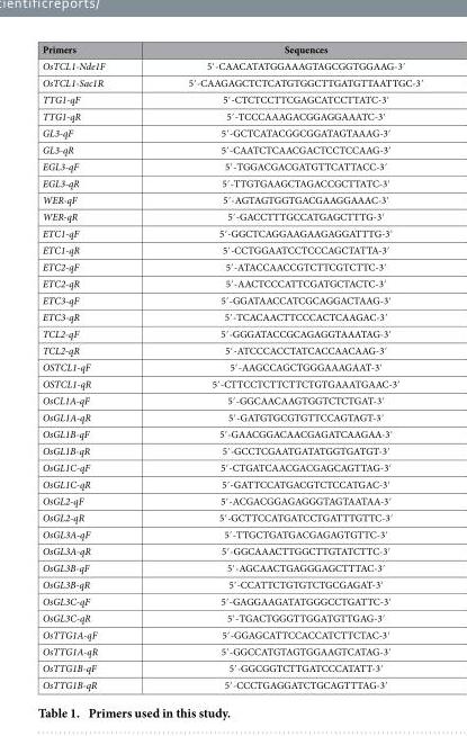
<table><thead><tr><td>Primers</td><td>Sequences</td></tr></thead><tbody><tr><td>OsTCL1-Nde1F</td><td>5′ -CAACATATGGAAAGTAGCGGTGGAAG-3′</td></tr><tr><td>OsTCL1-Sac1R</td><td>5′ -CAAGAGCTCTCATGTGGCTTGATGTTAATTGC-3′</td></tr><tr><td>TTG1-qF</td><td>5′ -CTCTCCTTCGAGCATCCTTATC-3′</td></tr><tr><td>TTG1-qR</td><td>5′ -TCCCAAAGACGGAGGAAATC-3′</td></tr><tr><td>GL3-qF</td><td>5′ -GCTCATACGGCGGATAGTAAAG-3′</td></tr><tr><td>GL3-qR</td><td>5′ -CAATCTCAACGACTCCTCCAAG-3′</td></tr><tr><td>EGL3-qF</td><td>5′ -TGGACGACGATGTTCATTACC-3′</td></tr><tr><td>EGL3-qR</td><td>5′ -TTGTGAAGCTAGACCGCTTATC-3′</td></tr><tr><td>WER-qF</td><td>5′ -AGTAGTGGTGACGAAGGAAAC-3′</td></tr><tr><td>WER-qR</td><td>5′ -GACCTTTGCCATGAGCTTTG-3′</td></tr><tr><td>ETC1-qF</td><td>5′ -GGCTCAGGAAGAAGAGGATTTG-3′</td></tr><tr><td>ETC1-qR</td><td>5′ -CCTGGAATCCTCCCAGCTATTA-3′</td></tr><tr><td>ETC2-qF</td><td>5′ -ATACCAACCGTCTTCGTCTTC-3′</td></tr><tr><td>ETC2-qR</td><td>5′ -AACTCCCATTCGATGCTACTC-3′</td></tr><tr><td>ETC3-qF</td><td>5′ -GGATAACCATCGCAGGACTAAG-3′</td></tr><tr><td>ETC3-qR</td><td>5′ -TCACAACTTCCCACTCAAGAC-3′</td></tr><tr><td>TCL2-qF</td><td>5′ -GGGATACCGCAGAGGTAAATAG-3′</td></tr><tr><td>TCL2-qR</td><td>5′ -ATCCCACCTATCACCAACAAG-3′</td></tr><tr><td>OSTCL1-qF</td><td>5′ -AAGCCAGCTGGGAAAGAAT-3′</td></tr><tr><td>OSTCL1-qR</td><td>5′ -CTTCCTCTTCTTCTGTGAAATGAAC-3′</td></tr><tr><td>OsCL1A-qF</td><td>5′ -GGCAACAAGTGGTCTCTGAT-3′</td></tr><tr><td>OsGL1A-qR</td><td>5′ -GATGTGCGTGTTCCAGTAGT-3′</td></tr><tr><td>OsGL1B-qF</td><td>5′ -GAACGGACAACGAGATCAAGAA-3′</td></tr><tr><td>OsGL1B-qR</td><td>5′ -GCCTCGAATGATATGGTGATGT-3′</td></tr><tr><td>OsGL1C-qF</td><td>5′ -CTGATCAACGACGAGCAGTTAG-3′</td></tr><tr><td>OsGL1C-qR</td><td>5′ -GATTCCATGACGTCTCCATGAC-3′</td></tr><tr><td>OsGL2-qF</td><td>5′ -ACGACGGAGAGGGTAGTAATAA-3′</td></tr><tr><td>OsGL2-qR</td><td>5′ -GCTTCCATGATCCTGATTTGTTC-3′</td></tr><tr><td>OsGL3A-qF</td><td>5′ -TTGCTGATGACGAGAGTGTTC-3′</td></tr><tr><td>OsGL3A-qR</td><td>5′ -GGCAAACTTGGCTTGTATCTTC-3′</td></tr><tr><td>OsGL3B-qF</td><td>5′ -AGCAACTGAGGGAGCTTTAC-3′</td></tr><tr><td>OsGL3B-qR</td><td>5′ -CCATTCTGTGTCTGCGAGAT-3′</td></tr><tr><td>OsGL3C-qF</td><td>5′ -GAGGAAGATATGGGCCTGATTC-3′</td></tr><tr><td>OsGL3C-qR</td><td>5′ -TGACTGGGTTGGATGTTGAG-3′</td></tr><tr><td>OsTTG1A-qF</td><td>5′ -GGAGCATTCCACCATCTTCTAC-3′</td></tr><tr><td>OsTTG1A-qR</td><td>5′ -GGCCATGTAGTGGAAGTCATAG-3′</td></tr><tr><td>OsTTG1B-qF</td><td>5′ -GGCGGTCTTGATCCCATATT-3′</td></tr><tr><td>OsTTG1B-qR</td><td>5′ -CCCTGAGGATCTGCAGTTTAG-3′</td></tr></tbody></table>